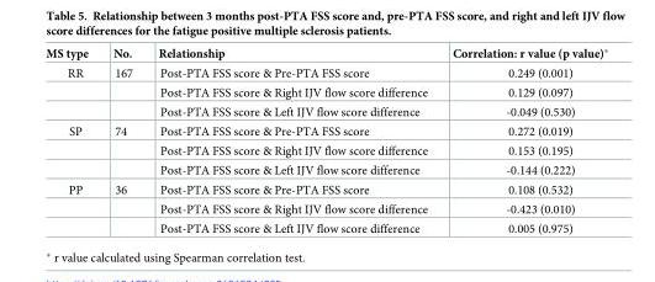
<table><thead><tr><td>MS type</td><td>No.</td><td>Relationship</td><td>Correlation: r value (p value)*</td></tr></thead><tbody><tr><td rowspan="3">RR</td><td>167</td><td>Post-PTA FSS score &amp; Pre-PTA FSS score</td><td>0.249 (0.001)</td></tr><tr><td></td><td>Post-PTA FSS score &amp; Right IJV flow score difference</td><td>0.129 (0.097)</td></tr><tr><td></td><td>Post-PTA FSS score &amp; Left IJV flow score difference</td><td>-0.049 (0.530)</td></tr><tr><td rowspan="3">SP</td><td>74</td><td>Post-PTA FSS score &amp; Pre-PTA FSS score</td><td>0.272 (0.019)</td></tr><tr><td></td><td>Post-PTA FSS score &amp; Right IJV flow score difference</td><td>0.153 (0.195)</td></tr><tr><td></td><td>Post-PTA FSS score &amp; Left IJV flow score difference</td><td>-0.144 (0.222)</td></tr><tr><td rowspan="3">PP</td><td>36</td><td>Post-PTA FSS score &amp; Pre-PTA FSS score</td><td>0.108 (0.532)</td></tr><tr><td></td><td>Post-PTA FSS score &amp; Right IJV flow score difference</td><td>-0.423 (0.010)</td></tr><tr><td></td><td>Post-PTA FSS score &amp; Left IJV flow score difference</td><td>0.005 (0.975)</td></tr></tbody></table>